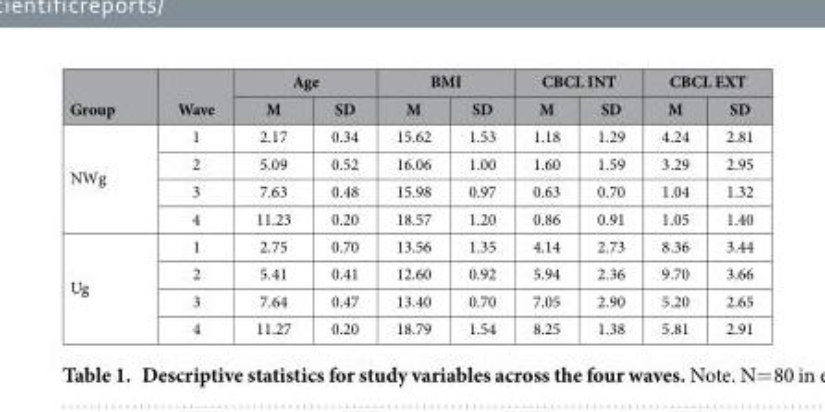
<table><thead><tr><td rowspan="2">Group</td><td rowspan="2">Wave</td><td colspan="2">Age</td><td colspan="2">BMI</td><td colspan="2">CBCL INT</td><td colspan="2">CBCL EXT</td></tr><tr><td>M</td><td>SD</td><td>M</td><td>SD</td><td>M</td><td>SD</td><td>M</td><td>SD</td></tr></thead><tbody><tr><td rowspan="4">NWg</td><td>1</td><td>2.17</td><td>0.34</td><td>15.62</td><td>1.53</td><td>1.18</td><td>1.29</td><td>4.24</td><td>2.81</td></tr><tr><td>2</td><td>5.09</td><td>0.52</td><td>16.06</td><td>1.00</td><td>1.60</td><td>1.59</td><td>3.29</td><td>2.95</td></tr><tr><td>3</td><td>7.63</td><td>0.48</td><td>15.98</td><td>0.97</td><td>0.63</td><td>0.70</td><td>1.04</td><td>1.32</td></tr><tr><td>4</td><td>11.23</td><td>0.20</td><td>18.57</td><td>1.20</td><td>0.86</td><td>0.91</td><td>1.05</td><td>1.40</td></tr><tr><td rowspan="4">Ug</td><td>1</td><td>2.75</td><td>0.70</td><td>13.56</td><td>1.35</td><td>4.14</td><td>2.73</td><td>8.36</td><td>3.44</td></tr><tr><td>2</td><td>5.41</td><td>0.41</td><td>12.60</td><td>0.92</td><td>5.94</td><td>2.36</td><td>9.70</td><td>3.66</td></tr><tr><td>3</td><td>7.64</td><td>0.47</td><td>13.40</td><td>0.70</td><td>7.05</td><td>2.90</td><td>5.20</td><td>2.65</td></tr><tr><td>4</td><td>11.27</td><td>0.20</td><td>18.79</td><td>1.54</td><td>8.25</td><td>1.38</td><td>5.81</td><td>2.91</td></tr></tbody></table>